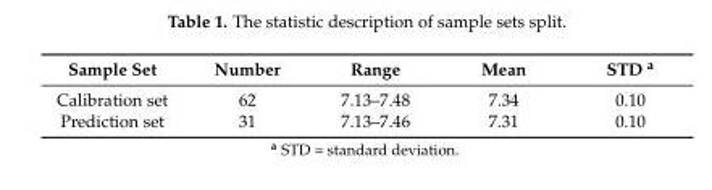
<table><thead><tr><td>Sample Set</td><td>Number</td><td>Range</td><td>Mean</td><td>STD <sup>a</sup></td></tr></thead><tbody><tr><td>Calibration set</td><td>62</td><td>7.13–7.48</td><td>7.34</td><td>0.10</td></tr><tr><td>Prediction set</td><td>31</td><td>7.13–7.46</td><td>7.31</td><td>0.10</td></tr></tbody></table>